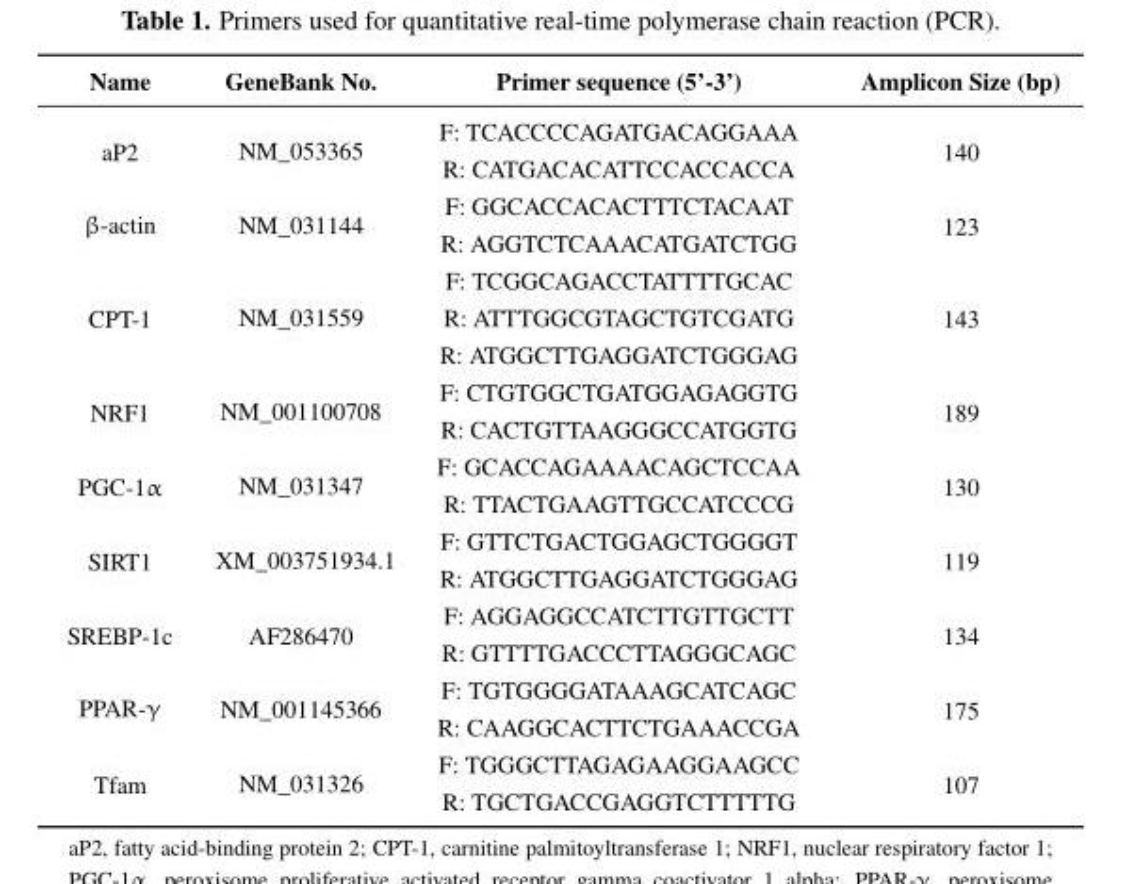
<table><thead><tr><td>Name</td><td>GeneBank No.</td><td>Primer sequence (5’-3’)</td><td>Amplicon Size (bp)</td></tr></thead><tbody><tr><td rowspan="2">aP2</td><td rowspan="2">NM_053365</td><td>F: TCACCCCAGATGACAGGAAA</td><td rowspan="2">140</td></tr><tr><td>R: CATGACACATTCCACCACCA</td></tr><tr><td rowspan="2">β-actin</td><td rowspan="2">NM_031144</td><td>F: GGCACCACACTTTCTACAAT</td><td rowspan="2">123</td></tr><tr><td>R: AGGTCTCAAACATGATCTGG</td></tr><tr><td rowspan="3">CPT-1</td><td rowspan="3">NM_031559</td><td>F: TCGGCAGACCTATTTTGCAC</td><td rowspan="3">143</td></tr><tr><td>R: ATTTGGCGTAGCTGTCGATG</td></tr><tr><td>R: ATGGCTTGAGGATCTGGGAG</td></tr><tr><td rowspan="2">NRF1</td><td rowspan="2">NM_001100708</td><td>F: CTGTGGCTGATGGAGAGGTG</td><td rowspan="2">189</td></tr><tr><td>R: CACTGTTAAGGGCCATGGTG</td></tr><tr><td rowspan="2">PGC-1α</td><td rowspan="2">NM_031347</td><td>F: GCACCAGAAAACAGCTCCAA</td><td rowspan="2">130</td></tr><tr><td>R: TTACTGAAGTTGCCATCCCG</td></tr><tr><td rowspan="2">SIRT1</td><td rowspan="2">XM_003751934.1</td><td>F: GTTCTGACTGGAGCTGGGGT</td><td rowspan="2">119</td></tr><tr><td>R: ATGGCTTGAGGATCTGGGAG</td></tr><tr><td rowspan="2">SREBP-1c</td><td rowspan="2">AF286470</td><td>F: AGGAGGCCATCTTGTTGCTT</td><td rowspan="2">134</td></tr><tr><td>R: GTTTTGACCCTTAGGGCAGC</td></tr><tr><td rowspan="2">PPAR-γ</td><td rowspan="2">NM_001145366</td><td>F: TGTGGGGATAAAGCATCAGC</td><td rowspan="2">175</td></tr><tr><td>R: CAAGGCACTTCTGAAACCGA</td></tr><tr><td rowspan="2">Tfam</td><td rowspan="2">NM_031326</td><td>F: TGGGCTTAGAGAAGGAAGCC</td><td rowspan="2">107</td></tr><tr><td>R: TGCTGACCGAGGTCTTTTTG</td></tr></tbody></table>